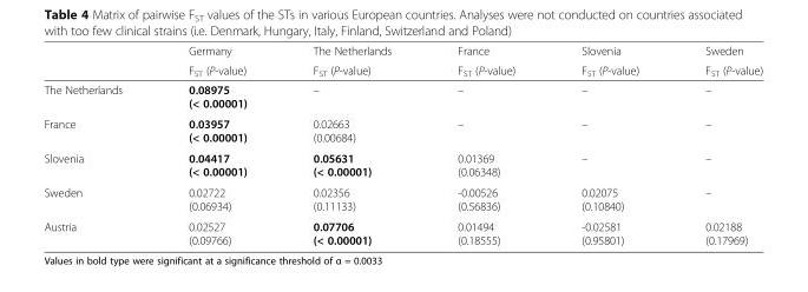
<table><thead><tr><td rowspan="2"></td><td rowspan="2">Germany F<sub>ST</sub> (P-value)</td><td rowspan="2">The Netherlands FST (P-value)</td><td rowspan="2">France FST (P-value)</td><td rowspan="2">Slovenia FST (P-value)</td><td rowspan="2">Sweden FST (P-value)</td></tr><tr></tr></thead><tbody><tr><td>The Netherlands</td><td>0.08975 (&lt; 0.00001)</td><td>–</td><td>–</td><td>–</td><td>–</td></tr><tr><td>France</td><td>0.03957 (&lt; 0.00001)</td><td>0.02663 (0.00684)</td><td>–</td><td>–</td><td>–</td></tr><tr><td>Slovenia</td><td>0.04417 (&lt; 0.00001)</td><td>0.05631 (&lt; 0.00001)</td><td>0.01369 (0.06348)</td><td>–</td><td>–</td></tr><tr><td>Sweden</td><td>0.02722 (0.06934)</td><td>0.02356 (0.11133)</td><td>-0.00526 (0.56836)</td><td>0.02075 (0.10840)</td><td>–</td></tr><tr><td>Austria</td><td>0.02527 (0.09766)</td><td>0.07706 (&lt; 0.00001)</td><td>0.01494 (0.18555)</td><td>-0.02581 (0.95801)</td><td>0.02188 (0.17969)</td></tr></tbody></table>